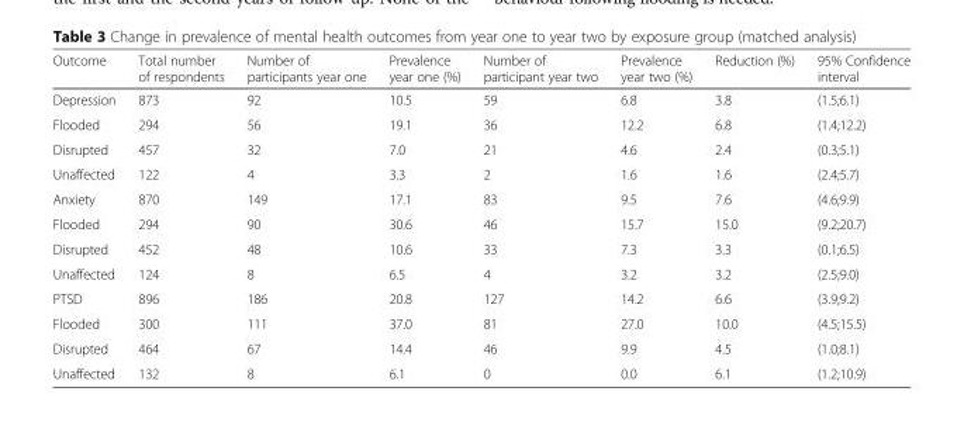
<table><thead><tr><td>Outcome</td><td>Total number of respondents</td><td>Number of participants year one</td><td>Prevalence year one (%)</td><td>Number of participant year two</td><td>Prevalence year two (%)</td><td>Reduction (%)</td><td>95% Confidence interval</td></tr></thead><tbody><tr><td>Depression</td><td>873</td><td>92</td><td>10.5</td><td>59</td><td>6.8</td><td>3.8</td><td>(1.5;6.1)</td></tr><tr><td>Flooded</td><td>294</td><td>56</td><td>19.1</td><td>36</td><td>12.2</td><td>6.8</td><td>(1.4;12.2)</td></tr><tr><td>Disrupted</td><td>457</td><td>32</td><td>7.0</td><td>21</td><td>4.6</td><td>2.4</td><td>(0.3;5.1)</td></tr><tr><td>Unaffected</td><td>122</td><td>4</td><td>3.3</td><td>2</td><td>1.6</td><td>1.6</td><td>(2.4;5.7)</td></tr><tr><td>Anxiety</td><td>870</td><td>149</td><td>17.1</td><td>83</td><td>9.5</td><td>7.6</td><td>(4.6;9.9)</td></tr><tr><td>Flooded</td><td>294</td><td>90</td><td>30.6</td><td>46</td><td>15.7</td><td>15.0</td><td>(9.2;20.7)</td></tr><tr><td>Disrupted</td><td>452</td><td>48</td><td>10.6</td><td>33</td><td>7.3</td><td>3.3</td><td>(0.1;6.5)</td></tr><tr><td>Unaffected</td><td>124</td><td>8</td><td>6.5</td><td>4</td><td>3.2</td><td>3.2</td><td>(2.5;9.0)</td></tr><tr><td>PTSD</td><td>896</td><td>186</td><td>20.8</td><td>127</td><td>14.2</td><td>6.6</td><td>(3.9;9.2)</td></tr><tr><td>Flooded</td><td>300</td><td>111</td><td>37.0</td><td>81</td><td>27.0</td><td>10.0</td><td>(4.5;15.5)</td></tr><tr><td>Disrupted</td><td>464</td><td>67</td><td>14.4</td><td>46</td><td>9.9</td><td>4.5</td><td>(1.0;8.1)</td></tr><tr><td>Unaffected</td><td>132</td><td>8</td><td>6.1</td><td>0</td><td>0.0</td><td>6.1</td><td>(1.2;10.9)</td></tr></tbody></table>